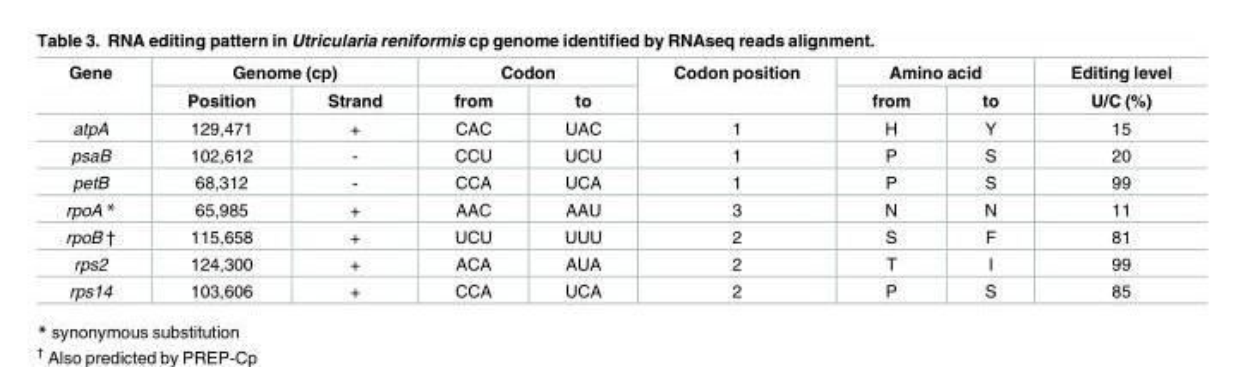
<table><thead><tr><td rowspan="2">Gene</td><td colspan="2">Genome (cp)</td><td colspan="2">Codon</td><td rowspan="2">Codon position</td><td colspan="2">Amino acid</td><td rowspan="2">Editing level U/C (%)</td></tr><tr><td>Position</td><td>Strand</td><td>from</td><td>to</td><td>from</td><td>to</td></tr></thead><tbody><tr><td>atpA</td><td>129,471</td><td>+</td><td>CAC</td><td>UAC</td><td>1</td><td>H</td><td>Y</td><td>15</td></tr><tr><td>psaB</td><td>102,612</td><td>-</td><td>CCU</td><td>UCU</td><td>1</td><td>P</td><td>S</td><td>20</td></tr><tr><td>petB</td><td>68,312</td><td>-</td><td>CCA</td><td>UCA</td><td>1</td><td>P</td><td>S</td><td>99</td></tr><tr><td>rpoA *</td><td>65,985</td><td>+</td><td>AAC</td><td>AAU</td><td>3</td><td>N</td><td>N</td><td>11</td></tr><tr><td>rpoB †</td><td>115,658</td><td>+</td><td>UCU</td><td>UUU</td><td>2</td><td>S</td><td>F</td><td>81</td></tr><tr><td>rps2</td><td>124,300</td><td>+</td><td>ACA</td><td>AUA</td><td>2</td><td>T</td><td>I</td><td>99</td></tr><tr><td>rps14</td><td>103,606</td><td>+</td><td>CCA</td><td>UCA</td><td>2</td><td>P</td><td>S</td><td>85</td></tr></tbody></table>